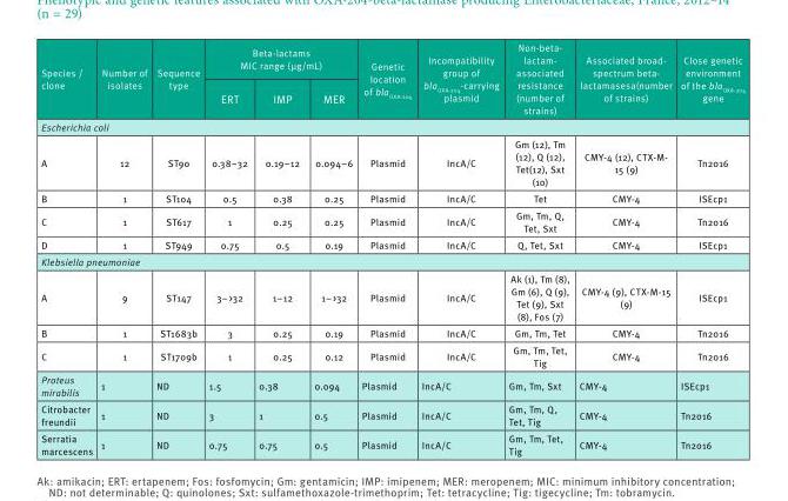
<table><thead><tr><td rowspan="2">Species / clone</td><td rowspan="2">Number of isolates</td><td rowspan="2">Sequence type</td><td colspan="3">Beta-lactams MIC range (µg/mL)</td><td rowspan="2">Genetic location of blaOXA-204</td><td rowspan="2">Incompatibility group of blaOXA-204-carrying plasmid</td><td rowspan="2">Non-beta- lactam- associated resistance (number of strains)</td><td rowspan="2">Associated broad- spectrum beta- lactamasesa(number of strains)</td><td rowspan="2">Close genetic environment of the blaOXA-204 gene</td></tr><tr><td>ERT</td><td>IMP</td><td>MER</td></tr></thead><tbody><tr><td colspan="11">Escherichia coli</td></tr><tr><td>A</td><td>12</td><td>ST90</td><td>0.38–32</td><td>0.19–12</td><td>0.094–6</td><td>Plasmid</td><td>IncA/C</td><td>Gm (12), Tm (12), Q (12), Tet(12), Sxt (10)</td><td>CMY-4 (12), CTX-M- 15 (9)</td><td>Tn2016</td></tr><tr><td>B</td><td>1</td><td>ST104</td><td>0.5</td><td>0.38</td><td>0.25</td><td>Plasmid</td><td>IncA/C</td><td>Tet</td><td>CMY-4</td><td>ISEcp1</td></tr><tr><td>C</td><td>1</td><td>ST617</td><td>1</td><td>0.25</td><td>0.25</td><td>Plasmid</td><td>IncA/C</td><td>Gm, Tm, Q, Tet, Sxt</td><td>CMY-4</td><td>Tn2016</td></tr><tr><td>D</td><td>1</td><td>ST949</td><td>0.75</td><td>0.5</td><td>0.19</td><td>Plasmid</td><td>IncA/C</td><td>Q, Tet, Sxt</td><td>CMY-4</td><td>ISEcp1</td></tr><tr><td colspan="11">Klebsiella pneumoniae</td></tr><tr><td>A</td><td>9</td><td>ST147</td><td>3– &gt;32</td><td>1–12</td><td>1– &gt;32</td><td>Plasmid</td><td>IncA/C</td><td>Ak (1), Tm (8), Gm (6), Q (9), Tet (9), Sxt (8), Fos (7)</td><td>CMY-4 (9), CTX-M-15 (9)</td><td>ISEcp1</td></tr><tr><td>B</td><td>1</td><td>ST1683<sup>b</sup></td><td>3</td><td>0.25</td><td>0.19</td><td>Plasmid</td><td>IncA/C</td><td>Gm, Tm, Tet</td><td>CMY-4</td><td>Tn2016</td></tr><tr><td>C</td><td>1</td><td>ST1709<sup>b</sup></td><td>1</td><td>0.25</td><td>0.12</td><td>Plasmid</td><td>IncA/C</td><td>Gm, Tm, Tet, Tig</td><td>CMY-4</td><td>Tn2016</td></tr><tr><td>Proteus mirabilis</td><td>1</td><td>ND</td><td>1.5</td><td>0.38</td><td>0.094</td><td>Plasmid</td><td>IncA/C</td><td>Gm, Tm, Sxt</td><td>CMY-4</td><td>ISEcp1</td></tr><tr><td>Citrobacter freundii</td><td>1</td><td>ND</td><td>3</td><td>1</td><td>0.5</td><td>Plasmid</td><td>IncA/C</td><td>Gm, Tm, Q, Tet, Tig</td><td>CMY-4</td><td>Tn2016</td></tr><tr><td>Serratia marcescens</td><td>1</td><td>ND</td><td>0.75</td><td>0.75</td><td>0.5</td><td>Plasmid</td><td>IncA/C</td><td>Gm, Tm, Tet, Tig</td><td>CMY-4</td><td>Tn2016</td></tr></tbody></table>